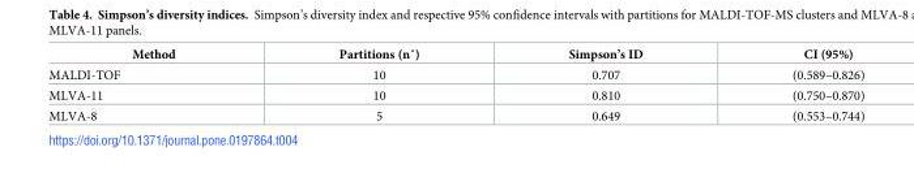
<table><thead><tr><td>Method</td><td>Partitions (n˚)</td><td>Simpson’s ID</td><td>CI (95%)</td></tr></thead><tbody><tr><td>MALDI-TOF</td><td>10</td><td>0.707</td><td>(0.589–0.826)</td></tr><tr><td>MLVA-11</td><td>10</td><td>0.810</td><td>(0.750–0.870)</td></tr><tr><td>MLVA-8</td><td>5</td><td>0.649</td><td>(0.553–0.744)</td></tr></tbody></table>